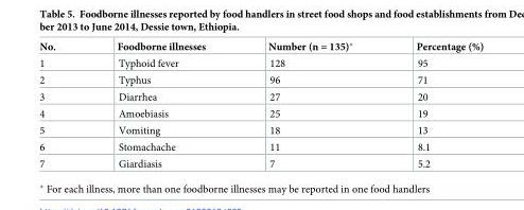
<table><thead><tr><td>No.</td><td>Foodborne illnesses</td><td>Number (n = 135)*</td><td>Percentage (%)</td></tr></thead><tbody><tr><td>1</td><td>Typhoid fever</td><td>128</td><td>95</td></tr><tr><td>2</td><td>Typhus</td><td>96</td><td>71</td></tr><tr><td>3</td><td>Diarrhea</td><td>27</td><td>20</td></tr><tr><td>4</td><td>Amoebiasis</td><td>25</td><td>19</td></tr><tr><td>5</td><td>Vomiting</td><td>18</td><td>13</td></tr><tr><td>6</td><td>Stomachache</td><td>11</td><td>8.1</td></tr><tr><td>7</td><td>Giardiasis</td><td>7</td><td>5.2</td></tr></tbody></table>